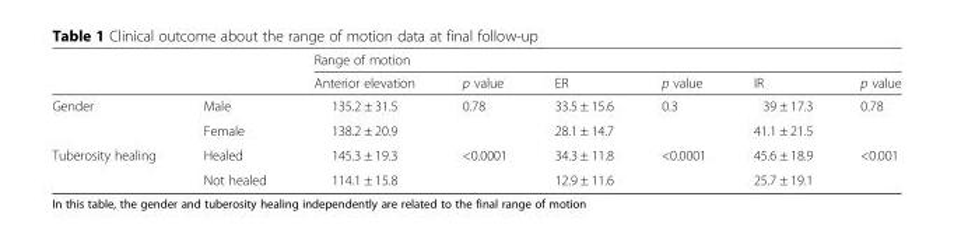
<table><thead><tr><td rowspan="2"></td><td rowspan="2"></td><td colspan="6">Range of motion</td></tr><tr><td>Anterior elevation</td><td>p value</td><td>ER</td><td>p value</td><td>IR</td><td>p value</td></tr></thead><tbody><tr><td rowspan="2">Gender</td><td>Male</td><td>135.2 ± 31.5</td><td rowspan="2">0.78</td><td>33.5 ± 15.6</td><td>0.3</td><td>39 ± 17.3</td><td>0.78</td></tr><tr><td>Female</td><td>138.2 ± 20.9</td><td>28.1 ± 14.7</td><td></td><td>41.1 ± 21.5</td><td></td></tr><tr><td rowspan="2">Tuberosity healing</td><td>Healed</td><td>145.3 ± 19.3</td><td rowspan="2">&lt;0.0001</td><td>34.3 ± 11.8</td><td rowspan="2">&lt;0.0001</td><td>45.6 ± 18.9</td><td rowspan="2">&lt;0.001</td></tr><tr><td>Not healed</td><td>114.1 ± 15.8</td><td>12.9 ± 11.6</td><td>25.7 ± 19.1</td></tr></tbody></table>